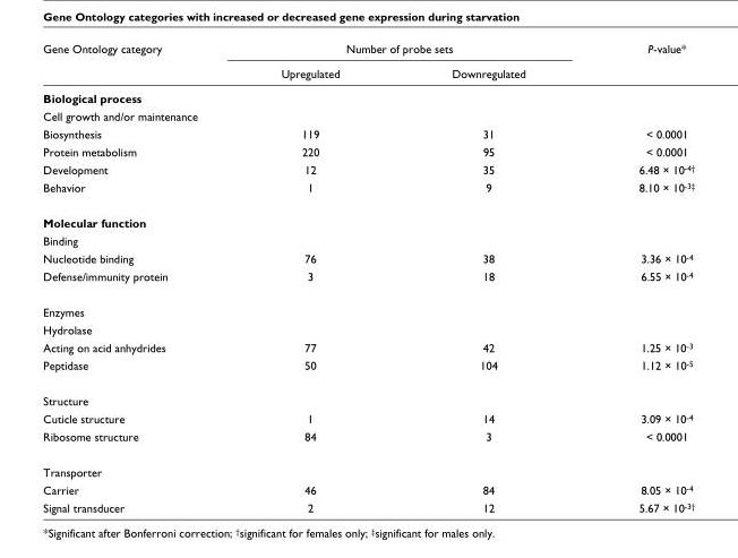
<table><thead><tr><td rowspan="2">Gene Ontology category</td><td colspan="2">Number of probe sets</td><td rowspan="2">P-value*</td></tr><tr><td>Upregulated</td><td>Downregulated</td></tr></thead><tbody><tr><td colspan="4">Biological process</td></tr><tr><td colspan="4">Cell growth and/or maintenance</td></tr><tr><td>Biosynthesis</td><td>119</td><td>31</td><td>&lt; 0.0001</td></tr><tr><td>Protein metabolism</td><td>220</td><td>95</td><td>&lt; 0.0001</td></tr><tr><td>Development</td><td>12</td><td>35</td><td>6.48 × 10-4†</td></tr><tr><td>Behavior</td><td>1</td><td>9</td><td>8.10 × 10-3‡</td></tr><tr><td colspan="4">Molecular function</td></tr><tr><td colspan="4">Binding</td></tr><tr><td>Nucleotide binding</td><td>76</td><td>38</td><td>3.36 × 10-4</td></tr><tr><td>Defense/immunity protein</td><td>3</td><td>18</td><td>6.55 × 10-4</td></tr><tr><td colspan="4">Enzymes</td></tr><tr><td colspan="4">Hydrolase</td></tr><tr><td>Acting on acid anhydrides</td><td>77</td><td>42</td><td>1.25 × 10-3</td></tr><tr><td>Peptidase</td><td>50</td><td>104</td><td>1.12 × 10-5</td></tr><tr><td colspan="4">Structure</td></tr><tr><td>Cuticle structure</td><td>1</td><td>14</td><td>3.09 × 10-4</td></tr><tr><td>Ribosome structure</td><td>84</td><td>3</td><td>&lt; 0.0001</td></tr><tr><td colspan="4">Transporter</td></tr><tr><td>Carrier</td><td>46</td><td>84</td><td>8.05 × 10-4</td></tr><tr><td>Signal transducer</td><td>2</td><td>12</td><td>5.67 × 10-3†</td></tr></tbody></table>